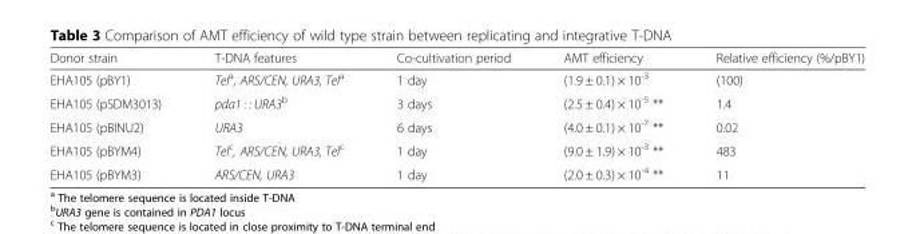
<table><thead><tr><td>Donor strain</td><td>T-DNA features</td><td>Co-cultivation period</td><td>AMT efficiency</td><td>Relative efficiency (%/pBY1)</td></tr></thead><tbody><tr><td>EHA105 (pBY1)</td><td>Tel<sup>a</sup>, ARS/CEN, URA3, Tel<sup>a</sup></td><td>1 day</td><td>(1.9 ± 0.1) × 10<sup>-3</sup></td><td>(100)</td></tr><tr><td>EHA105 (pSDM3013)</td><td>pda1 : : URA3<sup>b</sup></td><td>3 days</td><td>(2.5 ± 0.4) × 10<sup>-5</sup> **</td><td>1.4</td></tr><tr><td>EHA105 (pBINU2)</td><td>URA3</td><td>6 days</td><td>(4.0 ± 0.1) × 10<sup>-7</sup> **</td><td>0.02</td></tr><tr><td>EHA105 (pBYM4)</td><td>Tel<sup>c</sup>, ARS/CEN, URA3, Tel<sup>c</sup></td><td>1 day</td><td>(9.0 ± 1.9) × 10<sup>-3</sup> **</td><td>483</td></tr><tr><td>EHA105 (pBYM3)</td><td>ARS/CEN, URA3</td><td>1 day</td><td>(2.0 ± 0.3) × 10<sup>-4</sup> **</td><td>11</td></tr></tbody></table>